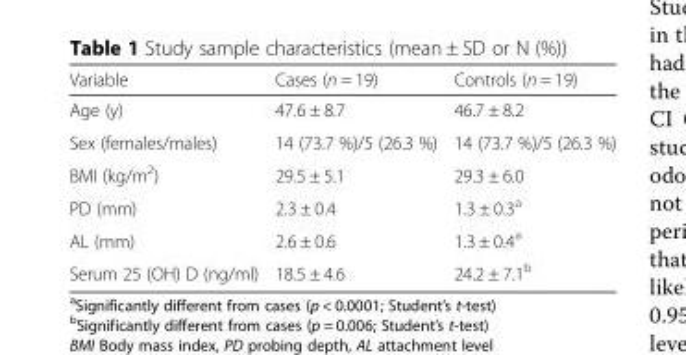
<table><thead><tr><td>Variable</td><td>Cases (n = 19)</td><td>Controls (n = 19)</td></tr></thead><tbody><tr><td>Age (y)</td><td>47.6 ± 8.7</td><td>46.7 ± 8.2</td></tr><tr><td>Sex (females/males)</td><td>14 (73.7 %)/5 (26.3 %)</td><td>14 (73.7 %)/5 (26.3 %)</td></tr><tr><td>BMI (kg/m<sup>2</sup>)</td><td>29.5 ± 5.1</td><td>29.3 ± 6.0</td></tr><tr><td>PD (mm)</td><td>2.3 ± 0.4</td><td>1.3 ± 0.3<sup>a</sup></td></tr><tr><td>AL (mm)</td><td>2.6 ± 0.6</td><td>1.3 ± 0.4<sup>a</sup></td></tr><tr><td>Serum 25 (OH) D (ng/ml)</td><td>18.5 ± 4.6</td><td>24.2 ± 7.1<sup>b</sup></td></tr></tbody></table>